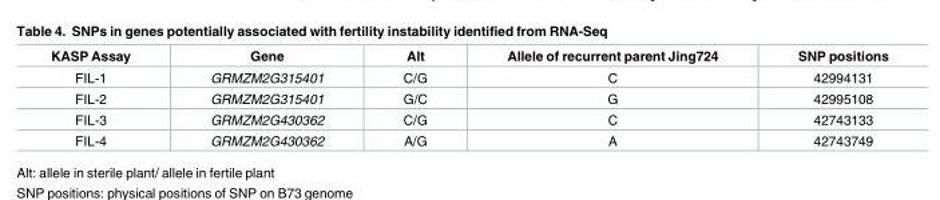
<table><thead><tr><td>KASP Assay</td><td>Gene</td><td>Alt</td><td>Allele of recurrent parent Jing724</td><td>SNP positions</td></tr></thead><tbody><tr><td>FIL-1</td><td>GRMZM2G315401</td><td>C/G</td><td>C</td><td>42994131</td></tr><tr><td>FIL-2</td><td>GRMZM2G315401</td><td>G/C</td><td>G</td><td>42995108</td></tr><tr><td>FIL-3</td><td>GRMZM2G430362</td><td>C/G</td><td>C</td><td>42743133</td></tr><tr><td>FIL-4</td><td>GRMZM2G430362</td><td>A/G</td><td>A</td><td>42743749</td></tr></tbody></table>